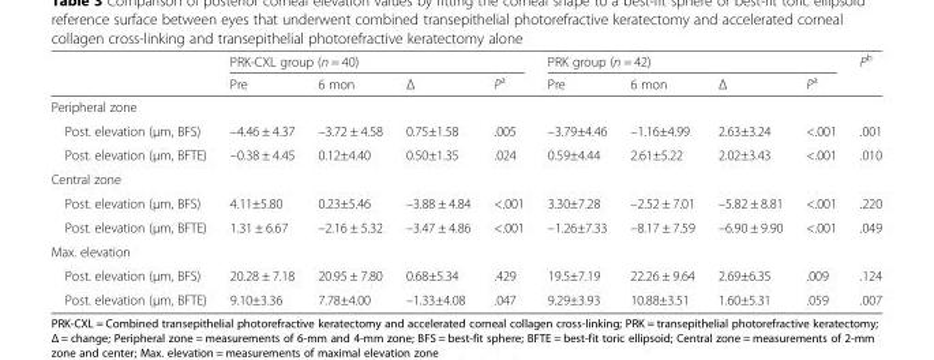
<table><thead><tr><td rowspan="2"></td><td colspan="4">PRK-CXL group (n = 40)</td><td colspan="4">PRK group (n = 42)</td><td rowspan="2">P<sup>b</sup></td></tr><tr><td>Pre</td><td>6 mon</td><td>Δ</td><td>P<sup>a</sup></td><td>Pre</td><td>6 mon</td><td>Δ</td><td>P<sup>a</sup></td></tr></thead><tbody><tr><td colspan="10">Peripheral zone</td></tr><tr><td>Post. elevation (μm, BFS)</td><td>–4.46 ± 4.37</td><td>–3.72 ± 4.58</td><td>0.75±1.58</td><td>.005</td><td>–3.79±4.46</td><td>–1.16±4.99</td><td>2.63±3.24</td><td>&lt;.001</td><td>.001</td></tr><tr><td>Post. elevation (μm, BFTE)</td><td>–0.38 ± 4.45</td><td>0.12±4.40</td><td>0.50±1.35</td><td>.024</td><td>0.59±4.44</td><td>2.61±5.22</td><td>2.02±3.43</td><td>&lt;.001</td><td>.010</td></tr><tr><td colspan="10">Central zone</td></tr><tr><td>Post. elevation (μm, BFS)</td><td>4.11±5.80</td><td>0.23±5.46</td><td>–3.88 ± 4.84</td><td>&lt;.001</td><td>3.30±7.28</td><td>–2.52 ± 7.01</td><td>–5.82 ± 8.81</td><td>&lt;.001</td><td>.220</td></tr><tr><td>Post. elevation (μm, BFTE)</td><td>1.31 ± 6.67</td><td>–2.16 ± 5.32</td><td>–3.47 ± 4.86</td><td>&lt;.001</td><td>–1.26±7.33</td><td>–8.17 ± 7.59</td><td>–6.90 ± 9.90</td><td>&lt;.001</td><td>.049</td></tr><tr><td colspan="10">Max. elevation</td></tr><tr><td>Post. elevation (μm, BFS)</td><td>20.28 ± 7.18</td><td>20.95 ± 7.80</td><td>0.68±5.34</td><td>.429</td><td>19.5±7.19</td><td>22.26 ± 9.64</td><td>2.69±6.35</td><td>.009</td><td>.124</td></tr><tr><td>Post. elevation (μm, BFTE)</td><td>9.10±3.36</td><td>7.78±4.00</td><td>–1.33±4.08</td><td>.047</td><td>9.29±3.93</td><td>10.88±3.51</td><td>1.60±5.31</td><td>.059</td><td>.007</td></tr></tbody></table>